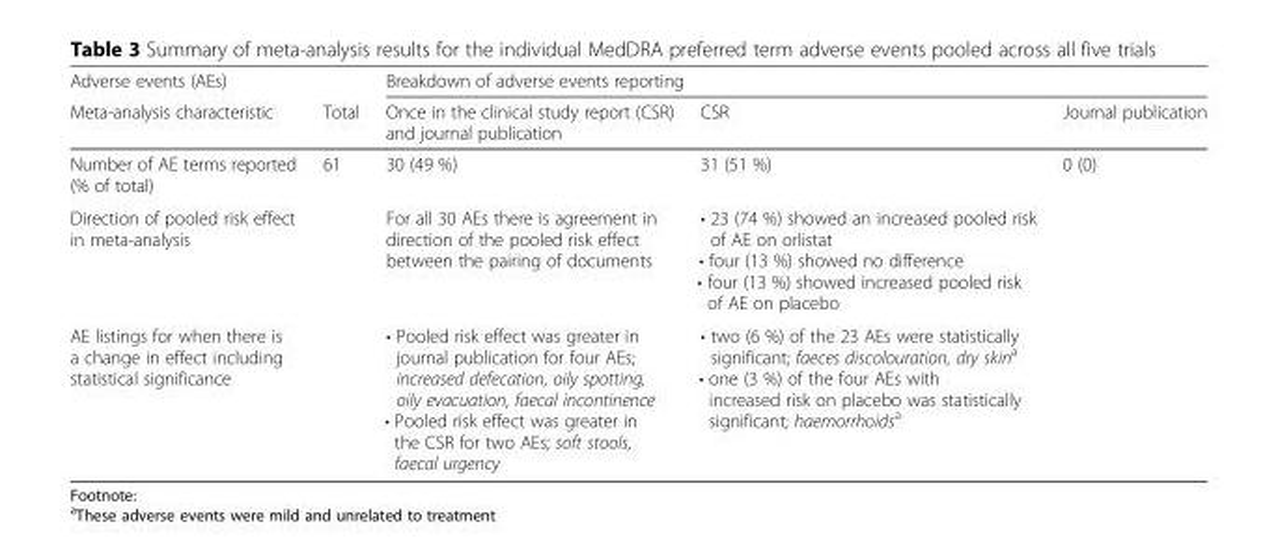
<table><thead><tr><td rowspan="2">Adverse events (AEs) Meta-analysis characteristic</td><td rowspan="2">Total</td><td colspan="3">Breakdown of adverse events reporting</td></tr><tr><td>Once in the clinical study report (CSR) and journal publication</td><td>CSR</td><td>Journal publication</td></tr></thead><tbody><tr><td>Number of AE terms reported (% of total)</td><td>61</td><td>30 (49 %)</td><td>31 (51 %)</td><td>0 (0)</td></tr><tr><td>Direction of pooled risk effect in meta-analysis</td><td></td><td>For all 30 AEs there is agreement in direction of the pooled risk effect between the pairing of documents</td><td>• 23 (74 %) showed an increased pooled risk of AE on orlistat • four (13 %) showed no difference • four (13 %) showed increased pooled risk of AE on placebo</td><td></td></tr><tr><td>AE listings for when there is a change in effect including statistical significance</td><td></td><td>• Pooled risk effect was greater in journal publication for four AEs; increased defecation, oily spotting, oily evacuation, faecal incontinence • Pooled risk effect was greater in the CSR for two AEs; soft stools, faecal urgency</td><td>• two (6 %) of the 23 AEs were statistically significant; faeces discolouration, dry skin<sup>a</sup> • one (3 %) of the four AEs with increased risk on placebo was statistically significant; haemorrhoids<sup>a</sup></td><td></td></tr></tbody></table>